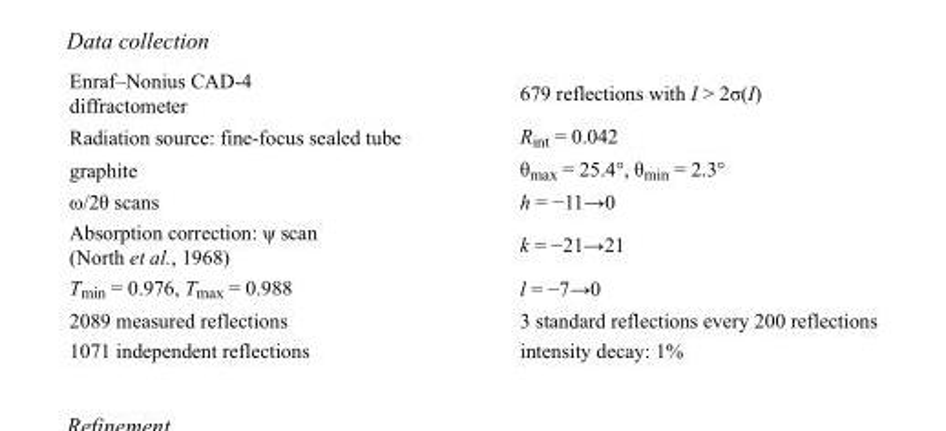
<table><tbody><tr><td>Enraf–Nonius CAD-4 diffractometer</td><td>679 reflections with I &gt; 2σ(I)</td></tr><tr><td>Radiation source: fine-focus sealed tube</td><td>R<sub>int</sub> = 0.042</td></tr><tr><td>graphite</td><td>θ<sub>max</sub> = 25.4°, θ<sub>min</sub> = 2.3°</td></tr><tr><td>ω/2θ scans</td><td>h = −11→0</td></tr><tr><td>Absorption correction: ψ scan (North et al., 1968)</td><td>k = −21→21</td></tr><tr><td>T<sub>min</sub> = 0.976, T<sub>max</sub> = 0.988</td><td>l = −7→0</td></tr><tr><td>2089 measured reflections</td><td>3 standard reflections every 200 reflections</td></tr><tr><td>1071 independent reflections</td><td>intensity decay: 1%</td></tr></tbody></table>